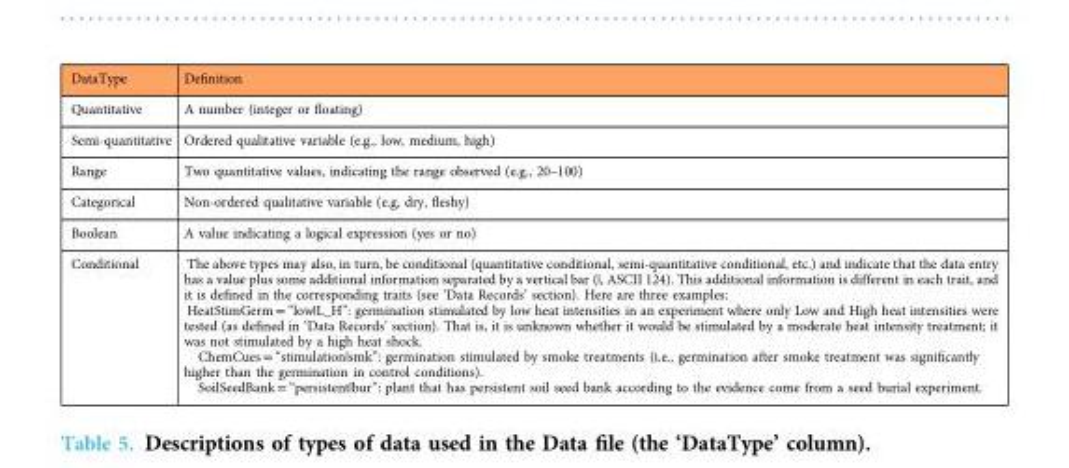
<table><thead><tr><td>DataType</td><td>Definition</td></tr></thead><tbody><tr><td>Quantitative</td><td>A number (integer or floating)</td></tr><tr><td>Semi-quantitative</td><td>Ordered qualitative variable (e.g., low, medium, high)</td></tr><tr><td>Range</td><td>Two quantitative values, indicating the range observed (e.g., 20–100)</td></tr><tr><td>Categorical</td><td>Non-ordered qualitative variable (e.g, dry, fleshy)</td></tr><tr><td>Boolean</td><td>A value indicating a logical expression (yes or no)</td></tr><tr><td>Conditional</td><td>The above types may also, in turn, be conditional (quantitative conditional, semi-quantitative conditional, etc.) and indicate that the data entry has a value plus some additional information separated by a vertical bar (|, ASCII 124). This additional information is different in each trait, and it is defined in the corresponding traits (see ‘Data Records’ section). Here are three examples: HeatStimGerm = “low|L_H”: germination stimulated by low heat intensities in an experiment where only Low and High heat intensities were tested (as defined in ‘Data Records’ section). That is, it is unknown whether it would be stimulated by a moderate heat intensity treatment; it was not stimulated by a high heat shock. ChemCues = “stimulation|smk”: germination stimulated by smoke treatments (i.e., germination after smoke treatment was significantly higher than the germination in control conditions). SoilSeedBank = “persistent|bur”: plant that has persistent soil seed bank according to the evidence come from a seed burial experiment.</td></tr></tbody></table>